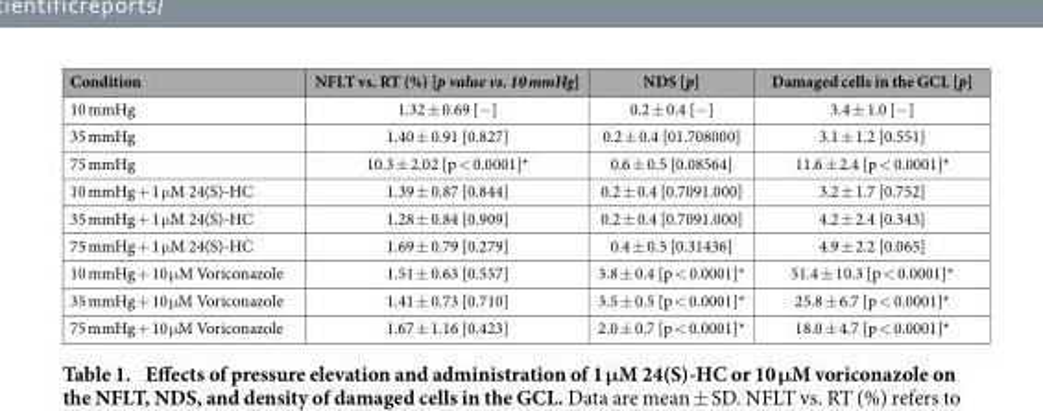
<table><thead><tr><td>Condition</td><td>NFLT vs. RT (%) [p value vs. 10 mmHg]</td><td>NDS [p]</td><td>Damaged cells in the GCL [p]</td></tr></thead><tbody><tr><td>10 mmHg</td><td>1.32 ± 0.69 [− ]</td><td>0.2 ± 0.4 [− ]</td><td>3.4 ± 1.0 [− ]</td></tr><tr><td>35 mmHg</td><td>1.40 ± 0.91 [0.827]</td><td>0.2 ± 0.4 [01.708000]</td><td>3.1 ± 1.2 [0.551]</td></tr><tr><td>75 mmHg</td><td>10.3 ± 2.02 [p &lt; 0.0001]*</td><td>0.6 ± 0.5 [0.08564]</td><td>11.6 ± 2.4 [p &lt; 0.0001]*</td></tr><tr><td>10 mmHg + 1 μ M 24(S)-HC</td><td>1.39 ± 0.87 [0.844]</td><td>0.2 ± 0.4 [0.7091.000]</td><td>3.2 ± 1.7 [0.752]</td></tr><tr><td>35 mmHg + 1 μ M 24(S)-HC</td><td>1.28 ± 0.84 [0.909]</td><td>0.2 ± 0.4 [0.7091.000]</td><td>4.2 ± 2.4 [0.343]</td></tr><tr><td>75 mmHg + 1 μ M 24(S)-HC</td><td>1.69 ± 0.79 [0.279]</td><td>0.4 ± 0.5 [0.31436]</td><td>4.9 ± 2.2 [0.065]</td></tr><tr><td>10 mmHg + 10 μ M Voriconazole</td><td>1.51 ± 0.63 [0.557]</td><td>3.8 ± 0.4 [p &lt; 0.0001]*</td><td>51.4 ± 10.3 [p &lt; 0.0001]*</td></tr><tr><td>35 mmHg + 10 μ M Voriconazole</td><td>1.41 ± 0.73 [0.710]</td><td>3.5 ± 0.5 [p &lt; 0.0001]*</td><td>25.8 ± 6.7 [p &lt; 0.0001]*</td></tr><tr><td>75 mmHg + 10 μ M Voriconazole</td><td>1.67 ± 1.16 [0.423]</td><td>2.0 ± 0.7 [p &lt; 0.0001]*</td><td>18.0 ± 4.7 [p &lt; 0.0001]*</td></tr></tbody></table>